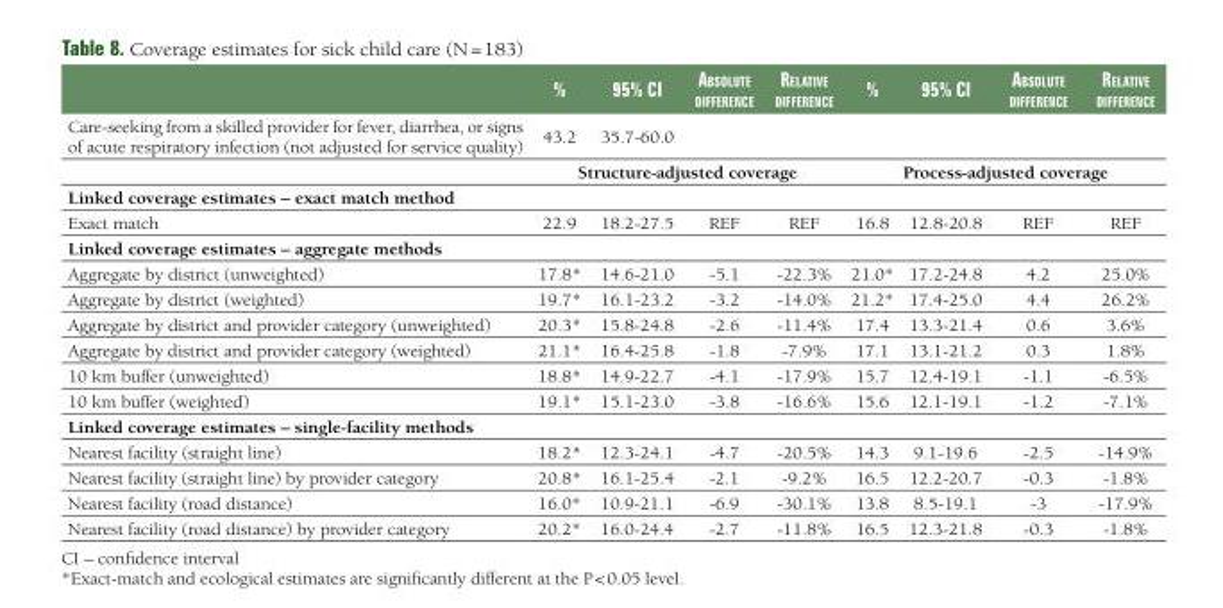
<table><thead><tr><td></td><td>%</td><td>95% CI</td><td>absOlute dIFFerenCe</td><td>relatIve dIFFerenCe</td><td>%</td><td>95% CI</td><td>absOlute dIFFerenCe</td><td>relatIve dIFFerenCe</td></tr></thead><tbody><tr><td rowspan="2">Care-seeking from a skilled provider for fever, diarrhea, or signs of acute respiratory infection (not adjusted for service quality)</td><td>43.2</td><td>35.7-60.0</td><td></td><td></td><td></td><td></td><td></td><td></td></tr><tr><td colspan="4">Structure-adjusted coverage</td><td colspan="4">Process-adjusted coverage</td></tr><tr><td colspan="9">Linked coverage estimates – exact match method</td></tr><tr><td>Exact match</td><td>22.9</td><td>18.2-27.5</td><td>REF</td><td>REF</td><td>16.8</td><td>12.8-20.8</td><td>REF</td><td>REF</td></tr><tr><td colspan="9">Linked coverage estimates – aggregate methods</td></tr><tr><td>Aggregate by district (unweighted)</td><td>17.8*</td><td>14.6-21.0</td><td>-5.1</td><td>-22.3%</td><td>21.0*</td><td>17.2-24.8</td><td>4.2</td><td>25.0%</td></tr><tr><td>Aggregate by district (weighted)</td><td>19.7*</td><td>16.1-23.2</td><td>-3.2</td><td>-14.0%</td><td>21.2*</td><td>17.4-25.0</td><td>4.4</td><td>26.2%</td></tr><tr><td>Aggregate by district and provider category (unweighted)</td><td>20.3*</td><td>15.8-24.8</td><td>-2.6</td><td>-11.4%</td><td>17.4</td><td>13.3-21.4</td><td>0.6</td><td>3.6%</td></tr><tr><td>Aggregate by district and provider category (weighted)</td><td>21.1*</td><td>16.4-25.8</td><td>-1.8</td><td>-7.9%</td><td>17.1</td><td>13.1-21.2</td><td>0.3</td><td>1.8%</td></tr><tr><td>10 km buffer (unweighted)</td><td>18.8*</td><td>14.9-22.7</td><td>-4.1</td><td>-17.9%</td><td>15.7</td><td>12.4-19.1</td><td>-1.1</td><td>-6.5%</td></tr><tr><td>10 km buffer (weighted)</td><td>19.1*</td><td>15.1-23.0</td><td>-3.8</td><td>-16.6%</td><td>15.6</td><td>12.1-19.1</td><td>-1.2</td><td>-7.1%</td></tr><tr><td colspan="9">Linked coverage estimates – single-facility methods</td></tr><tr><td>Nearest facility (straight line)</td><td>18.2*</td><td>12.3-24.1</td><td>-4.7</td><td>-20.5%</td><td>14.3</td><td>9.1-19.6</td><td>-2.5</td><td>-14.9%</td></tr><tr><td>Nearest facility (straight line) by provider category</td><td>20.8*</td><td>16.1-25.4</td><td>-2.1</td><td>-9.2%</td><td>16.5</td><td>12.2-20.7</td><td>-0.3</td><td>-1.8%</td></tr><tr><td>Nearest facility (road distance)</td><td>16.0*</td><td>10.9-21.1</td><td>-6.9</td><td>-30.1%</td><td>13.8</td><td>8.5-19.1</td><td>-3</td><td>-17.9%</td></tr><tr><td>Nearest facility (road distance) by provider category</td><td>20.2*</td><td>16.0-24.4</td><td>-2.7</td><td>-11.8%</td><td>16.5</td><td>12.3-21.8</td><td>-0.3</td><td>-1.8%</td></tr></tbody></table>